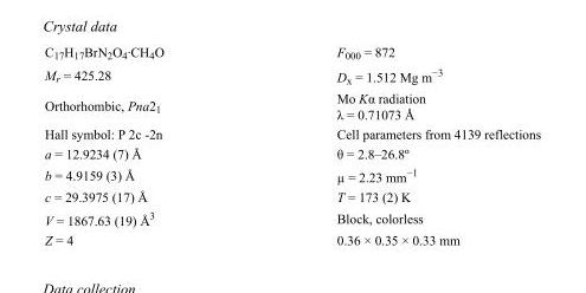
<table><tbody><tr><td>C<sub>17</sub>H<sub>17</sub>BrN<sub>2</sub>O<sub>4</sub>·CH<sub>4</sub>O</td><td>F<sub>000</sub> = 872</td></tr><tr><td>M<sub>r</sub> = 425.28</td><td>D<sub>x</sub> = 1.512 Mg m<sup>−3</sup></td></tr><tr><td>Orthorhombic, Pna2<sub>1</sub></td><td>Mo Kα radiation λ = 0.71073 Å</td></tr><tr><td>Hall symbol: P 2c -2n</td><td>Cell parameters from 4139 reflections</td></tr><tr><td>a = 12.9234 (7) Å</td><td>θ = 2.8–26.8º</td></tr><tr><td>b = 4.9159 (3) Å</td><td>µ = 2.23 mm<sup>−1</sup></td></tr><tr><td>c = 29.3975 (17) Å</td><td>T = 173 (2) K</td></tr><tr><td>V = 1867.63 (19) Å<sup>3</sup></td><td>Block, colorless</td></tr><tr><td>Z = 4</td><td>0.36 × 0.35 × 0.33 mm</td></tr></tbody></table>